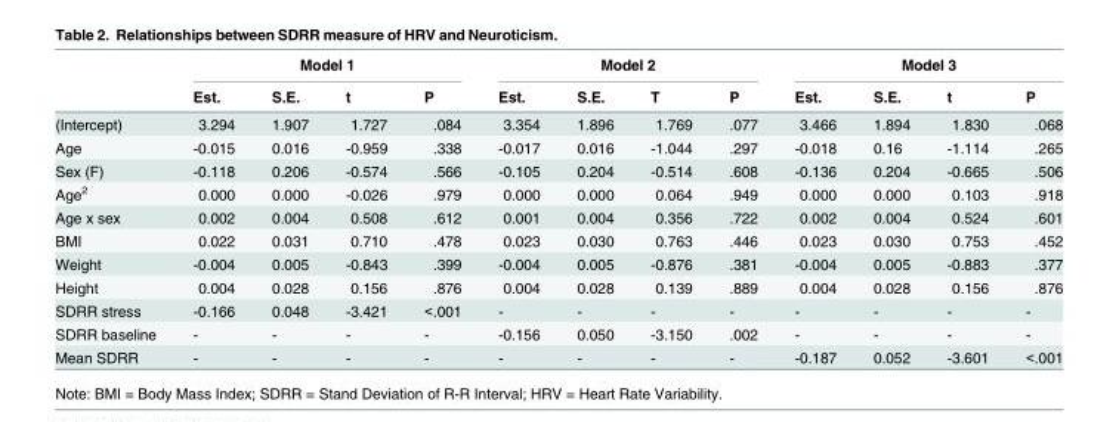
<table><thead><tr><td rowspan="2"></td><td colspan="4">Model 1</td><td colspan="4">Model 2</td><td colspan="4">Model 3</td></tr><tr><td>Est.</td><td>S.E.</td><td>t</td><td>P</td><td>Est.</td><td>S.E.</td><td>T</td><td>P</td><td>Est.</td><td>S.E.</td><td>t</td><td>P</td></tr></thead><tbody><tr><td>(Intercept)</td><td>3.294</td><td>1.907</td><td>1.727</td><td>.084</td><td>3.354</td><td>1.896</td><td>1.769</td><td>.077</td><td>3.466</td><td>1.894</td><td>1.830</td><td>.068</td></tr><tr><td>Age</td><td>-0.015</td><td>0.016</td><td>-0.959</td><td>.338</td><td>-0.017</td><td>0.016</td><td>-1.044</td><td>.297</td><td>-0.018</td><td>0.16</td><td>-1.114</td><td>.265</td></tr><tr><td>Sex (F)</td><td>-0.118</td><td>0.206</td><td>-0.574</td><td>.566</td><td>-0.105</td><td>0.204</td><td>-0.514</td><td>.608</td><td>-0.136</td><td>0.204</td><td>-0.665</td><td>.506</td></tr><tr><td>Age<sup>2</sup></td><td>0.000</td><td>0.000</td><td>-0.026</td><td>.979</td><td>0.000</td><td>0.000</td><td>0.064</td><td>.949</td><td>0.000</td><td>0.000</td><td>0.103</td><td>.918</td></tr><tr><td>Age x sex</td><td>0.002</td><td>0.004</td><td>0.508</td><td>.612</td><td>0.001</td><td>0.004</td><td>0.356</td><td>.722</td><td>0.002</td><td>0.004</td><td>0.524</td><td>.601</td></tr><tr><td>BMI</td><td>0.022</td><td>0.031</td><td>0.710</td><td>.478</td><td>0.023</td><td>0.030</td><td>0.763</td><td>.446</td><td>0.023</td><td>0.030</td><td>0.753</td><td>.452</td></tr><tr><td>Weight</td><td>-0.004</td><td>0.005</td><td>-0.843</td><td>.399</td><td>-0.004</td><td>0.005</td><td>-0.876</td><td>.381</td><td>-0.004</td><td>0.005</td><td>-0.883</td><td>.377</td></tr><tr><td>Height</td><td>0.004</td><td>0.028</td><td>0.156</td><td>.876</td><td>0.004</td><td>0.028</td><td>0.139</td><td>.889</td><td>0.004</td><td>0.028</td><td>0.156</td><td>.876</td></tr><tr><td>SDRR stress</td><td>-0.166</td><td>0.048</td><td>-3.421</td><td>&lt;.001</td><td>-</td><td>-</td><td>-</td><td>-</td><td>-</td><td>-</td><td>-</td><td>-</td></tr><tr><td>SDRR baseline</td><td>-</td><td>-</td><td>-</td><td>-</td><td>-0.156</td><td>0.050</td><td>-3.150</td><td>.002</td><td>-</td><td>-</td><td>-</td><td>-</td></tr><tr><td>Mean SDRR</td><td>-</td><td>-</td><td>-</td><td>-</td><td>-</td><td>-</td><td>-</td><td>-</td><td>-0.187</td><td>0.052</td><td>-3.601</td><td>&lt;.001</td></tr></tbody></table>